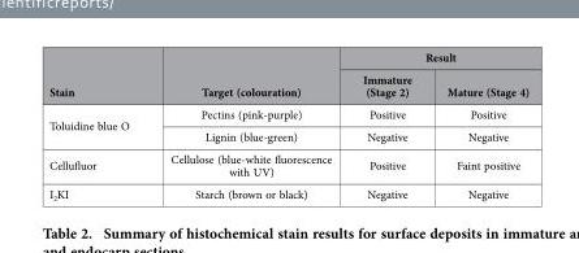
<table><thead><tr><td rowspan="2">Stain</td><td rowspan="2">Target (colouration)</td><td colspan="2">Result</td></tr><tr><td>Immature (Stage 2)</td><td>Mature (Stage 4)</td></tr></thead><tbody><tr><td rowspan="2">Toluidine blue O</td><td>Pectins (pink-purple)</td><td>Positive</td><td>Positive</td></tr><tr><td>Lignin (blue-green)</td><td>Negative</td><td>Negative</td></tr><tr><td>Cellufluor</td><td>Cellulose (blue-white fluorescence with UV)</td><td>Positive</td><td>Faint positive</td></tr><tr><td>I<sub>2</sub>KI</td><td>Starch (brown or black)</td><td>Negative</td><td>Negative</td></tr></tbody></table>